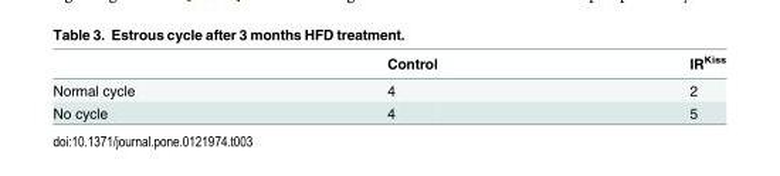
<table><thead><tr><td></td><td>Control</td><td>IR<sup>Kiss</sup></td></tr></thead><tbody><tr><td>Normal cycle</td><td>4</td><td>2</td></tr><tr><td>No cycle</td><td>4</td><td>5</td></tr></tbody></table>